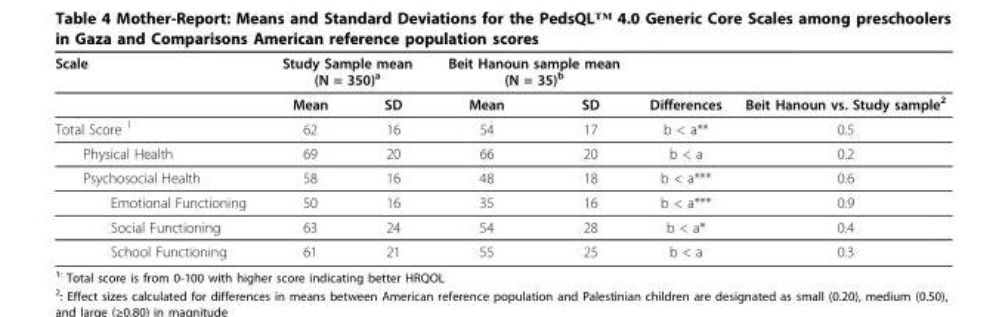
<table><thead><tr><td rowspan="2">Scale</td><td colspan="2">Study Sample mean (N = 350)<sup>a</sup></td><td colspan="2">Beit Hanoun sample mean (N = 35)<sup>b</sup></td><td rowspan="2">Differences</td><td rowspan="2">Beit Hanoun vs. Study sample<sup>2</sup></td></tr><tr><td>Mean</td><td>SD</td><td>Mean</td><td>SD</td></tr></thead><tbody><tr><td>Total Score <sup>1</sup></td><td>62</td><td>16</td><td>54</td><td>17</td><td>b &lt; a**</td><td>0.5</td></tr><tr><td>Physical Health</td><td>69</td><td>20</td><td>66</td><td>20</td><td>b &lt; a</td><td>0.2</td></tr><tr><td>Psychosocial Health</td><td>58</td><td>16</td><td>48</td><td>18</td><td>b &lt; a***</td><td>0.6</td></tr><tr><td>Emotional Functioning</td><td>50</td><td>16</td><td>35</td><td>16</td><td>b &lt; a***</td><td>0.9</td></tr><tr><td>Social Functioning</td><td>63</td><td>24</td><td>54</td><td>28</td><td>b &lt; a*</td><td>0.4</td></tr><tr><td>School Functioning</td><td>61</td><td>21</td><td>55</td><td>25</td><td>b &lt; a</td><td>0.3</td></tr></tbody></table>